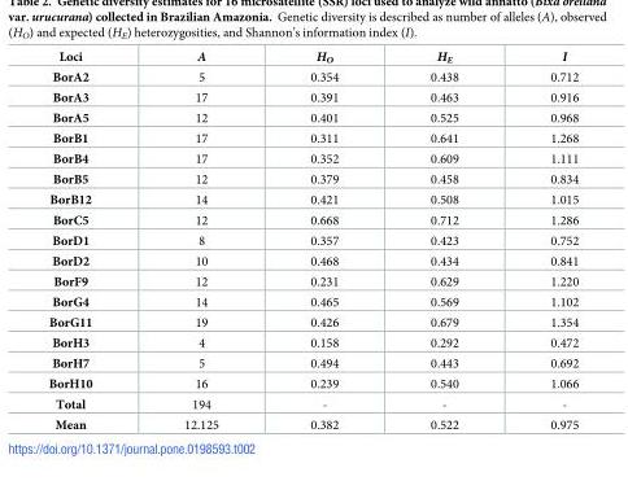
<table><thead><tr><td>Loci</td><td>A</td><td>H<sub>O</sub></td><td>H<sub>E</sub></td><td>I</td></tr></thead><tbody><tr><td>BorA2</td><td>5</td><td>0.354</td><td>0.438</td><td>0.712</td></tr><tr><td>BorA3</td><td>17</td><td>0.391</td><td>0.463</td><td>0.916</td></tr><tr><td>BorA5</td><td>12</td><td>0.401</td><td>0.525</td><td>0.968</td></tr><tr><td>BorB1</td><td>17</td><td>0.311</td><td>0.641</td><td>1.268</td></tr><tr><td>BorB4</td><td>17</td><td>0.352</td><td>0.609</td><td>1.111</td></tr><tr><td>BorB5</td><td>12</td><td>0.379</td><td>0.458</td><td>0.834</td></tr><tr><td>BorB12</td><td>14</td><td>0.421</td><td>0.508</td><td>1.015</td></tr><tr><td>BorC5</td><td>12</td><td>0.668</td><td>0.712</td><td>1.286</td></tr><tr><td>BorD1</td><td>8</td><td>0.357</td><td>0.423</td><td>0.752</td></tr><tr><td>BorD2</td><td>10</td><td>0.468</td><td>0.434</td><td>0.841</td></tr><tr><td>BorF9</td><td>12</td><td>0.231</td><td>0.629</td><td>1.220</td></tr><tr><td>BorG4</td><td>14</td><td>0.465</td><td>0.569</td><td>1.102</td></tr><tr><td>BorG11</td><td>19</td><td>0.426</td><td>0.679</td><td>1.354</td></tr><tr><td>BorH3</td><td>4</td><td>0.158</td><td>0.292</td><td>0.472</td></tr><tr><td>BorH7</td><td>5</td><td>0.494</td><td>0.443</td><td>0.692</td></tr><tr><td>BorH10</td><td>16</td><td>0.239</td><td>0.540</td><td>1.066</td></tr><tr><td>Total</td><td>194</td><td>-</td><td>-</td><td>-</td></tr><tr><td>Mean</td><td>12.125</td><td>0.382</td><td>0.522</td><td>0.975</td></tr></tbody></table>